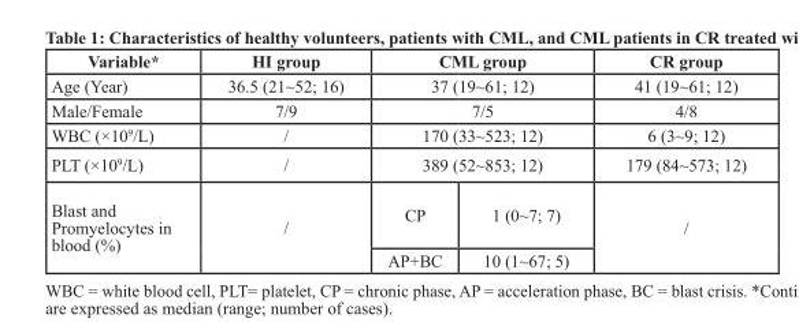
<table><thead><tr><td>Variable*</td><td>HI group</td><td colspan="2">CML group</td><td>CR group</td></tr></thead><tbody><tr><td>Age (Year)</td><td>36.5 (21~52; 16)</td><td colspan="2">37 (19~61; 12)</td><td>41 (19~61; 12)</td></tr><tr><td>Male/Female</td><td>7/9</td><td colspan="2">7/5</td><td>4/8</td></tr><tr><td>WBC (×10<sup>9</sup>/L)</td><td>/</td><td colspan="2">170 (33~523; 12)</td><td>6 (3~9; 12)</td></tr><tr><td>PLT (×10<sup>9</sup>/L)</td><td>/</td><td colspan="2">389 (52~853; 12)</td><td>179 (84~573; 12)</td></tr><tr><td rowspan="2">Blast and Promyelocytes in blood (%)</td><td rowspan="2">/</td><td>CP</td><td>1 (0~7; 7)</td><td rowspan="2">/</td></tr><tr><td>AP+BC</td><td>10 (1~67; 5)</td></tr></tbody></table>